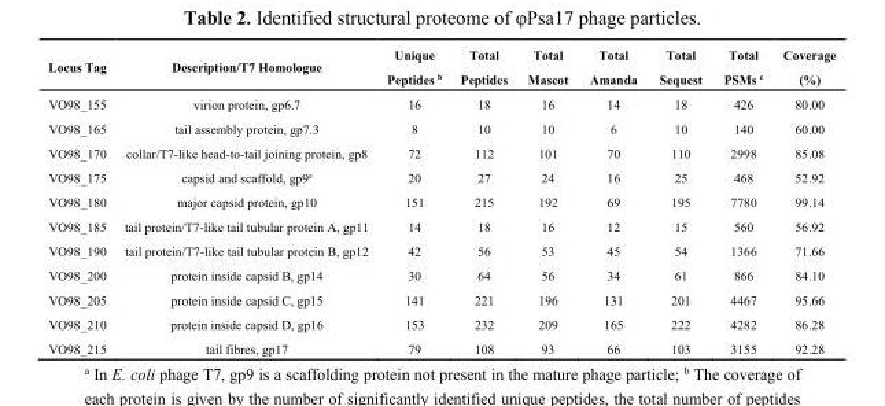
<table><thead><tr><td>Locus Tag</td><td>Description/T7 Homologue</td><td>Unique Peptides <sup>b</sup></td><td>Total Peptides</td><td>Total Mascot</td><td>Total Amanda</td><td>Total Sequest</td><td>Total PSMs <sup>c</sup></td><td>Coverage (%)</td></tr></thead><tbody><tr><td>VO98_155</td><td>virion protein, gp6.7</td><td>16</td><td>18</td><td>16</td><td>14</td><td>18</td><td>426</td><td>80.00</td></tr><tr><td>VO98_165</td><td>tail assembly protein, gp7.3</td><td>8</td><td>10</td><td>10</td><td>6</td><td>10</td><td>140</td><td>60.00</td></tr><tr><td>VO98_170</td><td>collar/T7-like head-to-tail joining protein, gp8</td><td>72</td><td>112</td><td>101</td><td>70</td><td>110</td><td>2998</td><td>85.08</td></tr><tr><td>VO98_175</td><td>capsid and scaffold, gp9<sup>a</sup></td><td>20</td><td>27</td><td>24</td><td>16</td><td>25</td><td>468</td><td>52.92</td></tr><tr><td>VO98_180</td><td>major capsid protein, gp10</td><td>151</td><td>215</td><td>192</td><td>69</td><td>195</td><td>7780</td><td>99.14</td></tr><tr><td>VO98_185</td><td>tail protein/T7-like tail tubular protein A, gp11</td><td>14</td><td>18</td><td>16</td><td>12</td><td>15</td><td>560</td><td>56.92</td></tr><tr><td>VO98_190</td><td>tail protein/T7-like tail tubular protein B, gp12</td><td>42</td><td>56</td><td>53</td><td>45</td><td>54</td><td>1366</td><td>71.66</td></tr><tr><td>VO98_200</td><td>protein inside capsid B, gp14</td><td>30</td><td>64</td><td>56</td><td>34</td><td>61</td><td>866</td><td>84.10</td></tr><tr><td>VO98_205</td><td>protein inside capsid C, gp15</td><td>141</td><td>221</td><td>196</td><td>131</td><td>201</td><td>4467</td><td>95.66</td></tr><tr><td>VO98_210</td><td>protein inside capsid D, gp16</td><td>153</td><td>232</td><td>209</td><td>165</td><td>222</td><td>4282</td><td>86.28</td></tr><tr><td>VO98_215</td><td>tail fibres, gp17</td><td>79</td><td>108</td><td>93</td><td>66</td><td>103</td><td>3155</td><td>92.28</td></tr></tbody></table>